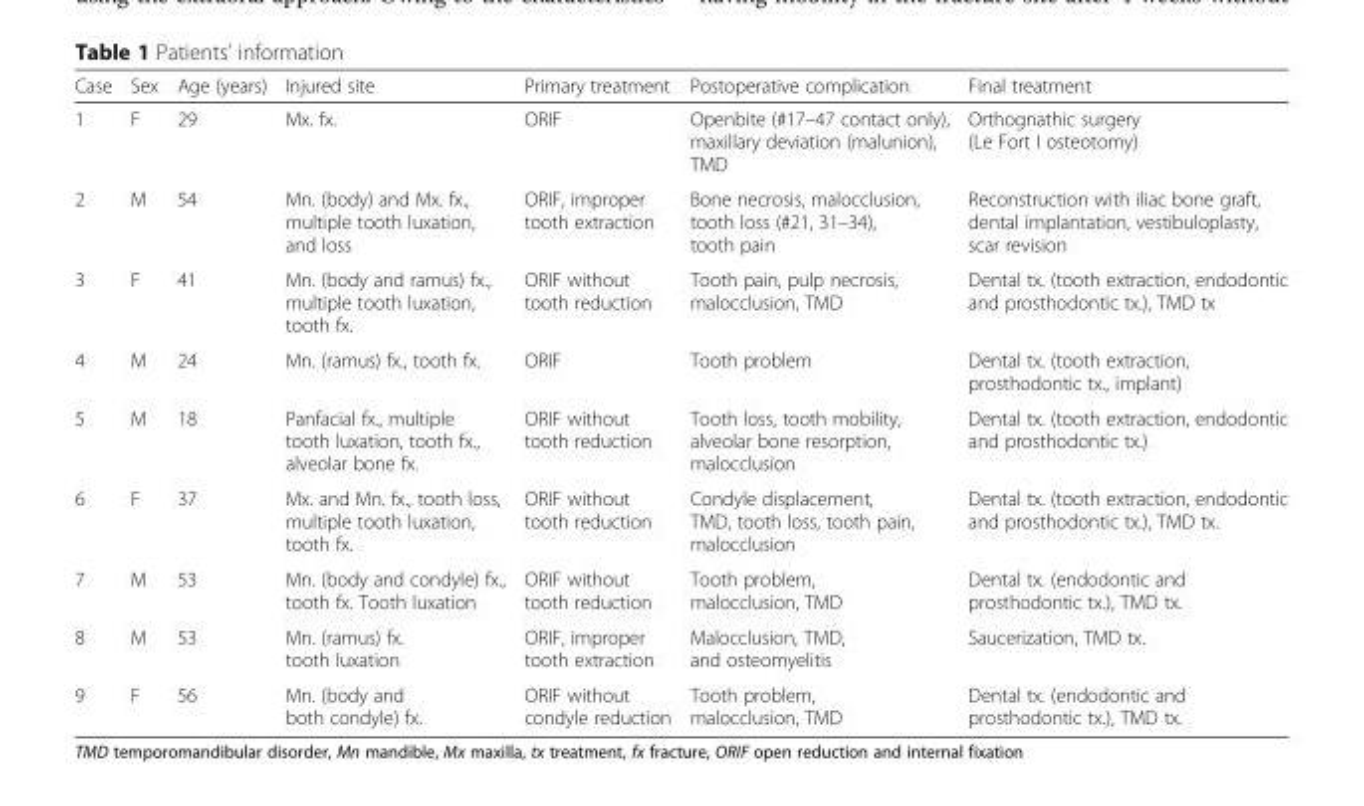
<table><thead><tr><td>Case</td><td>Sex</td><td>Age (years)</td><td>Injured site</td><td>Primary treatment</td><td>Postoperative complication</td><td>Final treatment</td></tr></thead><tbody><tr><td>1</td><td>F</td><td>29</td><td>Mx. fx.</td><td>ORIF</td><td>Openbite (#17–47 contact only), maxillary deviation (malunion), TMD</td><td>Orthognathic surgery (Le Fort I osteotomy)</td></tr><tr><td>2</td><td>M</td><td>54</td><td>Mn. (body) and Mx. fx., multiple tooth luxation, and loss</td><td>ORIF, improper tooth extraction</td><td>Bone necrosis, malocclusion, tooth loss (#21, 31–34), tooth pain</td><td>Reconstruction with iliac bone graft, dental implantation, vestibuloplasty, scar revision</td></tr><tr><td>3</td><td>F</td><td>41</td><td>Mn. (body and ramus) fx., multiple tooth luxation, tooth fx.</td><td>ORIF without tooth reduction</td><td>Tooth pain, pulp necrosis, malocclusion, TMD</td><td>Dental tx. (tooth extraction, endodontic and prosthodontic tx.), TMD tx</td></tr><tr><td>4</td><td>M</td><td>24</td><td>Mn. (ramus) fx., tooth fx.</td><td>ORIF</td><td>Tooth problem</td><td>Dental tx. (tooth extraction, prosthodontic tx., implant)</td></tr><tr><td>5</td><td>M</td><td>18</td><td>Panfacial fx., multiple tooth luxation, tooth fx., alveolar bone fx.</td><td>ORIF without tooth reduction</td><td>Tooth loss, tooth mobility, alveolar bone resorption, malocclusion</td><td>Dental tx. (tooth extraction, endodontic and prosthodontic tx.)</td></tr><tr><td>6</td><td>F</td><td>37</td><td>Mx. and Mn. fx., tooth loss, multiple tooth luxation, tooth fx.</td><td>ORIF without tooth reduction</td><td>Condyle displacement, TMD, tooth loss, tooth pain, malocclusion</td><td>Dental tx. (tooth extraction, endodontic and prosthodontic tx.), TMD tx.</td></tr><tr><td>7</td><td>M</td><td>53</td><td>Mn. (body and condyle) fx., tooth fx. Tooth luxation</td><td>ORIF without tooth reduction</td><td>Tooth problem, malocclusion, TMD</td><td>Dental tx. (endodontic and prosthodontic tx.), TMD tx.</td></tr><tr><td>8</td><td>M</td><td>53</td><td>Mn. (ramus) fx. tooth luxation</td><td>ORIF, improper tooth extraction</td><td>Malocclusion, TMD, and osteomyelitis</td><td>Saucerization, TMD tx.</td></tr><tr><td>9</td><td>F</td><td>56</td><td>Mn. (body and both condyle) fx.</td><td>ORIF without condyle reduction</td><td>Tooth problem, malocclusion, TMD</td><td>Dental tx. (endodontic and prosthodontic tx.), TMD tx.</td></tr></tbody></table>